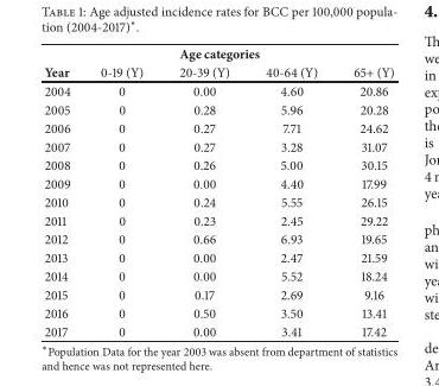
<table><thead><tr><td colspan="5">Age categories</td></tr><tr><td>Year</td><td>0-19 (Y)</td><td>20-39 (Y)</td><td>40-64 (Y)</td><td>65+ (Y)</td></tr></thead><tbody><tr><td>2004</td><td>0</td><td>0.00</td><td>4.60</td><td>20.86</td></tr><tr><td>2005</td><td>0</td><td>0.28</td><td>5.96</td><td>20.28</td></tr><tr><td>2006</td><td>0</td><td>0.27</td><td>7.71</td><td>24.62</td></tr><tr><td>2007</td><td>0</td><td>0.27</td><td>3.28</td><td>31.07</td></tr><tr><td>2008</td><td>0</td><td>0.26</td><td>5.00</td><td>30.15</td></tr><tr><td>2009</td><td>0</td><td>0.00</td><td>4.40</td><td>17.99</td></tr><tr><td>2010</td><td>0</td><td>0.24</td><td>5.55</td><td>26.15</td></tr><tr><td>2011</td><td>0</td><td>0.23</td><td>2.45</td><td>29.22</td></tr><tr><td>2012</td><td>0</td><td>0.66</td><td>6.93</td><td>19.65</td></tr><tr><td>2013</td><td>0</td><td>0.00</td><td>2.47</td><td>21.59</td></tr><tr><td>2014</td><td>0</td><td>0.00</td><td>5.52</td><td>18.24</td></tr><tr><td>2015</td><td>0</td><td>0.17</td><td>2.69</td><td>9.16</td></tr><tr><td>2016</td><td>0</td><td>0.50</td><td>3.50</td><td>13.41</td></tr><tr><td>2017</td><td>0</td><td>0.00</td><td>3.41</td><td>17.42</td></tr></tbody></table>